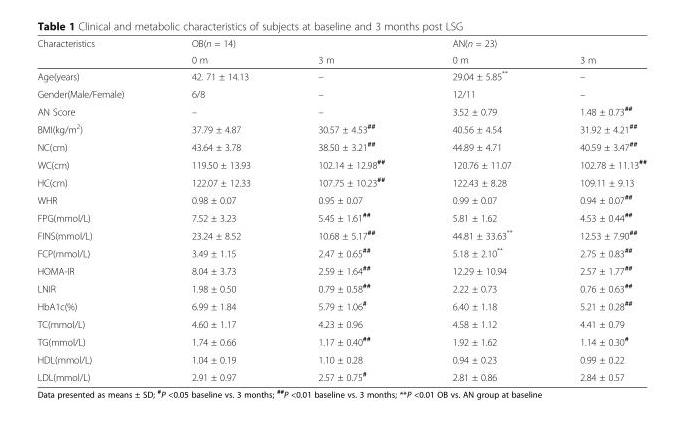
<table><thead><tr><td rowspan="2">Characteristics</td><td rowspan="2">OB(n = 14) 0 m</td><td rowspan="2">3 m</td><td rowspan="2">AN(n = 23) 0 m</td><td rowspan="2">3 m</td></tr><tr></tr></thead><tbody><tr><td>Age(years)</td><td>42. 71 ± 14.13</td><td>–</td><td>29.04 ± 5.85**</td><td>–</td></tr><tr><td>Gender(Male/Female)</td><td>6/8</td><td>–</td><td>12/11</td><td>–</td></tr><tr><td>AN Score</td><td>–</td><td>–</td><td>3.52 ± 0.79</td><td>1.48 ± 0.73<sup>##</sup></td></tr><tr><td>BMI(kg/m<sup>2</sup>)</td><td>37.79 ± 4.87</td><td>30.57 ± 4.53<sup>##</sup></td><td>40.56 ± 4.54</td><td>31.92 ± 4.21<sup>##</sup></td></tr><tr><td>NC(cm)</td><td>43.64 ± 3.78</td><td>38.50 ± 3.21<sup>##</sup></td><td>44.89 ± 4.71</td><td>40.59 ± 3.47<sup>##</sup></td></tr><tr><td>WC(cm)</td><td>119.50 ± 13.93</td><td>102.14 ± 12.98<sup>##</sup></td><td>120.76 ± 11.07</td><td>102.78 ± 11.13<sup>##</sup></td></tr><tr><td>HC(cm)</td><td>122.07 ± 12.33</td><td>107.75 ± 10.23<sup>##</sup></td><td>122.43 ± 8.28</td><td>109.11 ± 9.13</td></tr><tr><td>WHR</td><td>0.98 ± 0.07</td><td>0.95 ± 0.07</td><td>0.99 ± 0.07</td><td>0.94 ± 0.07<sup>##</sup></td></tr><tr><td>FPG(mmol/L)</td><td>7.52 ± 3.23</td><td>5.45 ± 1.61<sup>##</sup></td><td>5.81 ± 1.62</td><td>4.53 ± 0.44<sup>##</sup></td></tr><tr><td>FINS(mmol/L)</td><td>23.24 ± 8.52</td><td>10.68 ± 5.17<sup>##</sup></td><td>44.81 ± 33.63**</td><td>12.53 ± 7.90<sup>##</sup></td></tr><tr><td>FCP(mmol/L)</td><td>3.49 ± 1.15</td><td>2.47 ± 0.65<sup>##</sup></td><td>5.18 ± 2.10**</td><td>2.75 ± 0.83<sup>##</sup></td></tr><tr><td>HOMA-IR</td><td>8.04 ± 3.73</td><td>2.59 ± 1.64<sup>##</sup></td><td>12.29 ± 10.94</td><td>2.57 ± 1.77<sup>##</sup></td></tr><tr><td>LNIR</td><td>1.98 ± 0.50</td><td>0.79 ± 0.58<sup>##</sup></td><td>2.22 ± 0.73</td><td>0.76 ± 0.63<sup>##</sup></td></tr><tr><td>HbA1c(%)</td><td>6.99 ± 1.84</td><td>5.79 ± 1.06<sup>#</sup></td><td>6.40 ± 1.18</td><td>5.21 ± 0.28<sup>##</sup></td></tr><tr><td>TC(mmol/L)</td><td>4.60 ± 1.17</td><td>4.23 ± 0.96</td><td>4.58 ± 1.12</td><td>4.41 ± 0.79</td></tr><tr><td>TG(mmol/L)</td><td>1.74 ± 0.66</td><td>1.17 ± 0.40<sup>##</sup></td><td>1.92 ± 1.62</td><td>1.14 ± 0.30<sup>#</sup></td></tr><tr><td>HDL(mmol/L)</td><td>1.04 ± 0.19</td><td>1.10 ± 0.28</td><td>0.94 ± 0.23</td><td>0.99 ± 0.22</td></tr><tr><td>LDL(mmol/L)</td><td>2.91 ± 0.97</td><td>2.57 ± 0.75<sup>#</sup></td><td>2.81 ± 0.86</td><td>2.84 ± 0.57</td></tr></tbody></table>